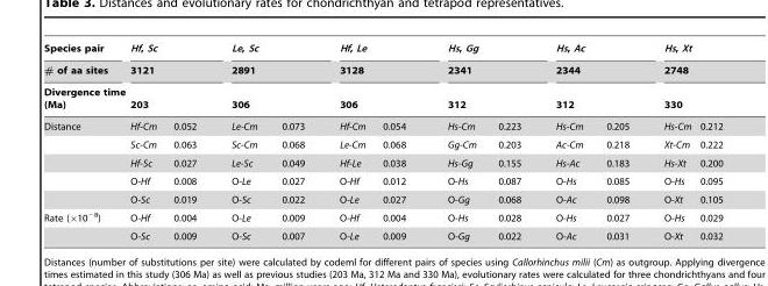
<table><thead><tr><td rowspan="4">Species pair # of aa sites Divergence time (Ma) Distance</td><td rowspan="3" colspan="2">Hf, Sc 3121 203</td><td rowspan="3" colspan="2">Le, Sc 2891 306</td><td rowspan="3" colspan="2">Hf, Le 3128 306</td><td rowspan="3" colspan="2">Hs, Gg 2341 312</td><td rowspan="3" colspan="2">Hs, Ac 2344 312</td><td rowspan="3" colspan="2">Hs, Xt 2748 330</td></tr><tr></tr><tr></tr><tr><td>Hf-Cm</td><td>0.052</td><td>Le-Cm</td><td>0.073</td><td>Hf-Cm</td><td>0.054</td><td>Hs-Cm</td><td>0.223</td><td>Hs-Cm</td><td>0.205</td><td>Hs-Cm</td><td>0.212</td></tr></thead><tbody><tr><td></td><td>Sc-Cm</td><td>0.063</td><td>Sc-Cm</td><td>0.068</td><td>Le-Cm</td><td>0.068</td><td>Gg-Cm</td><td>0.203</td><td>Ac-Cm</td><td>0.218</td><td>Xt-Cm</td><td>0.222</td></tr><tr><td></td><td>Hf-Sc</td><td>0.027</td><td>Le-Sc</td><td>0.049</td><td>Hf-Le</td><td>0.038</td><td>Hs-Gg</td><td>0.155</td><td>Hs-Ac</td><td>0.183</td><td>Hs-Xt</td><td>0.200</td></tr><tr><td></td><td>O-Hf</td><td>0.008</td><td>O-Le</td><td>0.027</td><td>O-Hf</td><td>0.012</td><td>O-Hs</td><td>0.087</td><td>O-Hs</td><td>0.085</td><td>O-Hs</td><td>0.095</td></tr><tr><td></td><td>O-Sc</td><td>0.019</td><td>O-Sc</td><td>0.022</td><td>O-Le</td><td>0.027</td><td>O-Gg</td><td>0.068</td><td>O-Ac</td><td>0.098</td><td>O-Xt</td><td>0.105</td></tr><tr><td rowspan="2">Rate (×10<sup>−8</sup>)</td><td>O-Hf</td><td>0.004</td><td>O-Le</td><td>0.009</td><td>O-Hf</td><td>0.004</td><td>O-Hs</td><td>0.028</td><td>O-Hs</td><td>0.027</td><td>O-Hs</td><td>0.029</td></tr><tr><td>O-Sc</td><td>0.009</td><td>O-Sc</td><td>0.007</td><td>O-Le</td><td>0.009</td><td>O-Gg</td><td>0.022</td><td>O-Ac</td><td>0.031</td><td>O-Xt</td><td>0.032</td></tr></tbody></table>